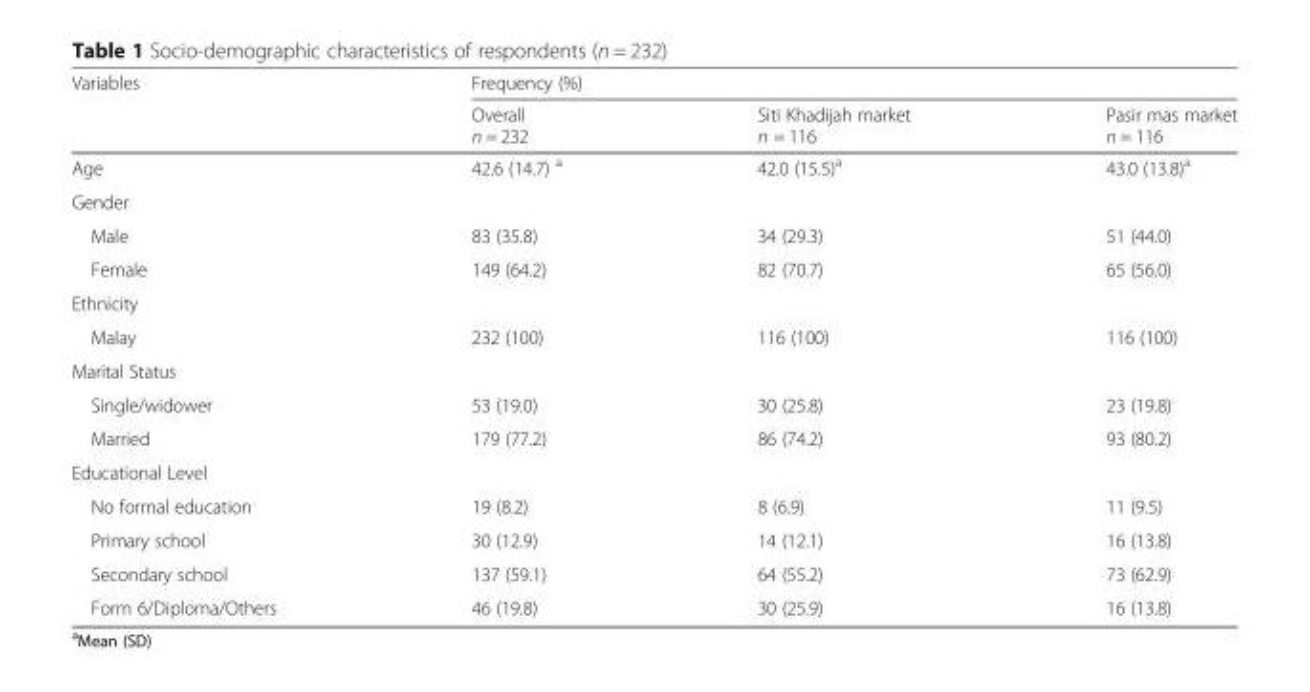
<table><thead><tr><td rowspan="2">Variables</td><td colspan="3">Frequency (%)</td></tr><tr><td>Overall n = 232</td><td>Siti Khadijah market n = 116</td><td>Pasir mas market n = 116</td></tr></thead><tbody><tr><td>Age</td><td>42.6 (14.7) <sup>a</sup></td><td>42.0 (15.5)<sup>a</sup></td><td>43.0 (13.8)<sup>a</sup></td></tr><tr><td colspan="4">Gender</td></tr><tr><td>Male</td><td>83 (35.8)</td><td>34 (29.3)</td><td>51 (44.0)</td></tr><tr><td>Female</td><td>149 (64.2)</td><td>82 (70.7)</td><td>65 (56.0)</td></tr><tr><td colspan="4">Ethnicity</td></tr><tr><td>Malay</td><td>232 (100)</td><td>116 (100)</td><td>116 (100)</td></tr><tr><td colspan="4">Marital Status</td></tr><tr><td>Single/widower</td><td>53 (19.0)</td><td>30 (25.8)</td><td>23 (19.8)</td></tr><tr><td>Married</td><td>179 (77.2)</td><td>86 (74.2)</td><td>93 (80.2)</td></tr><tr><td colspan="4">Educational Level</td></tr><tr><td>No formal education</td><td>19 (8.2)</td><td>8 (6.9)</td><td>11 (9.5)</td></tr><tr><td>Primary school</td><td>30 (12.9)</td><td>14 (12.1)</td><td>16 (13.8)</td></tr><tr><td>Secondary school</td><td>137 (59.1)</td><td>64 (55.2)</td><td>73 (62.9)</td></tr><tr><td>Form 6/Diploma/Others</td><td>46 (19.8)</td><td>30 (25.9)</td><td>16 (13.8)</td></tr></tbody></table>